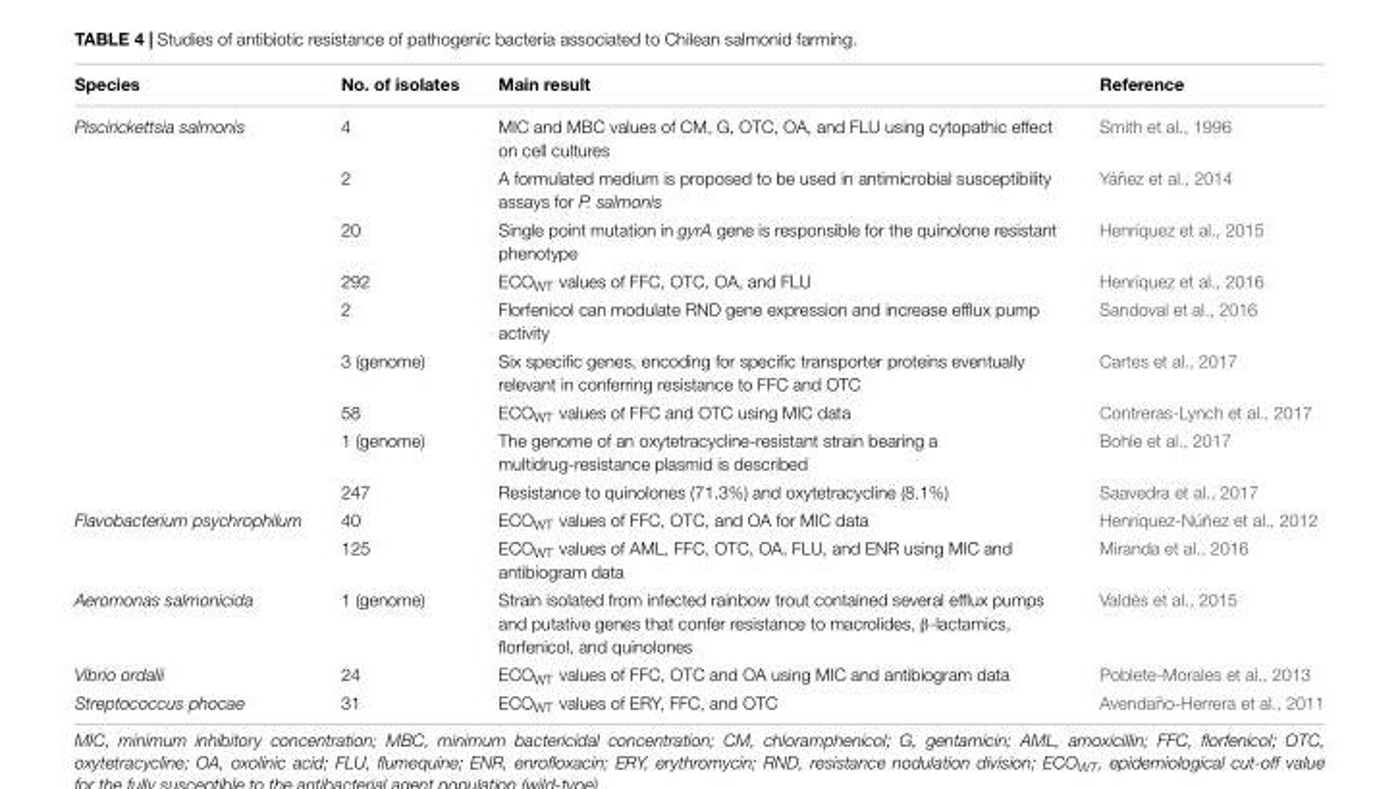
<table><thead><tr><td>Species</td><td>No. of isolates</td><td>Main result</td><td>Reference</td></tr></thead><tbody><tr><td rowspan="9">Piscirickettsia salmonis</td><td>4</td><td>MIC and MBC values of CM, G, OTC, OA, and FLU using cytopathic effect on cell cultures</td><td>Smith et al., 1996</td></tr><tr><td>2</td><td>A formulated medium is proposed to be used in antimicrobial susceptibility assays for P. salmonis</td><td>Yáñez et al., 2014</td></tr><tr><td>20</td><td>Single point mutation in gyrA gene is responsible for the quinolone resistant phenotype</td><td>Henríquez et al., 2015</td></tr><tr><td>292</td><td>ECO<sub>WT</sub> values of FFC, OTC, OA, and FLU</td><td>Henríquez et al., 2016</td></tr><tr><td>2</td><td>Florfenicol can modulate RND gene expression and increase efflux pump activity</td><td>Sandoval et al., 2016</td></tr><tr><td>3 (genome)</td><td>Six specific genes, encoding for specific transporter proteins eventually relevant in conferring resistance to FFC and OTC</td><td>Cartes et al., 2017</td></tr><tr><td>58</td><td>ECO<sub>WT</sub> values of FFC and OTC using MIC data</td><td>Contreras-Lynch et al., 2017</td></tr><tr><td>1 (genome)</td><td>The genome of an oxytetracycline-resistant strain bearing a multidrug-resistance plasmid is described</td><td>Bohle et al., 2017</td></tr><tr><td>247</td><td>Resistance to quinolones (71.3%) and oxytetracycline (8.1%)</td><td>Saavedra et al., 2017</td></tr><tr><td rowspan="2">Flavobacterium psychrophilum</td><td>40</td><td>ECO<sub>WT</sub> values of FFC, OTC, and OA for MIC data</td><td>Henríquez-Núñez et al., 2012</td></tr><tr><td>125</td><td>ECO<sub>WT</sub> values of AML, FFC, OTC, OA, FLU, and ENR using MIC and antibiogram data</td><td>Miranda et al., 2016</td></tr><tr><td>Aeromonas salmonicida</td><td>1 (genome)</td><td>Strain isolated from infected rainbow trout contained several efflux pumps and putative genes that confer resistance to macrolides, β-lactamics, florfenicol, and quinolones</td><td>Valdés et al., 2015</td></tr><tr><td>Vibrio ordalii</td><td>24</td><td>ECO<sub>WT</sub> values of FFC, OTC and OA using MIC and antibiogram data</td><td>Poblete-Morales et al., 2013</td></tr><tr><td>Streptococcus phocae</td><td>31</td><td>ECO<sub>WT</sub> values of ERY, FFC, and OTC</td><td>Avendaño-Herrera et al., 2011</td></tr></tbody></table>